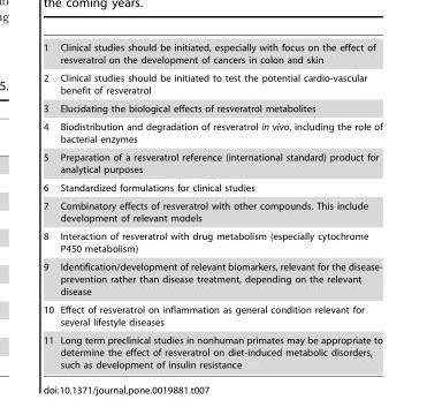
<table><tbody><tr><td>1</td><td>Clinical studies should be initiated, especially with focus on the effect of resveratrol on the development of cancers in colon and skin</td></tr><tr><td>2</td><td>Clinical studies should be initiated to test the potential cardio-vascular benefit of resveratrol</td></tr><tr><td>3</td><td>Elucidating the biological effects of resveratrol metabolites</td></tr><tr><td>4</td><td>Biodistribution and degradation of resveratrol in vivo, including the role of bacterial enzymes</td></tr><tr><td>5</td><td>Preparation of a resveratrol reference (international standard) product for analytical purposes</td></tr><tr><td>6</td><td>Standardized formulations for clinical studies</td></tr><tr><td>7</td><td>Combinatory effects of resveratrol with other compounds. This include development of relevant models</td></tr><tr><td>8</td><td>Interaction of resveratrol with drug metabolism (especially cytochrome P450 metabolism)</td></tr><tr><td>9</td><td>Identification/development of relevant biomarkers, relevant for the disease- prevention rather than disease treatment, depending on the relevant disease</td></tr><tr><td>10</td><td>Effect of resveratrol on inflammation as general condition relevant for several lifestyle diseases</td></tr><tr><td>11</td><td>Long term preclinical studies in nonhuman primates may be appropriate to determine the effect of resveratrol on diet-induced metabolic disorders, such as development of insulin resistance</td></tr></tbody></table>